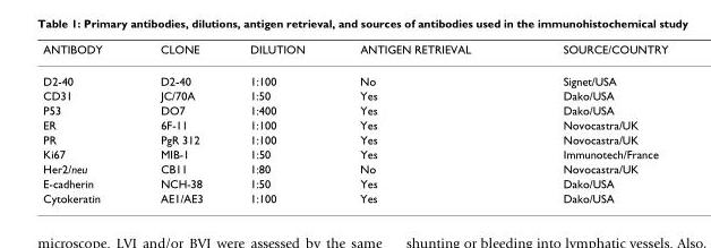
<table><thead><tr><td>ANTIBODY</td><td>CLONE</td><td>DILUTION</td><td>ANTIGEN RETRIEVAL</td><td>SOURCE/COUNTRY</td></tr></thead><tbody><tr><td>D2-40</td><td>D2-40</td><td>1:100</td><td>No</td><td>Signet/USA</td></tr><tr><td>CD31</td><td>JC/70A</td><td>1:50</td><td>Yes</td><td>Dako/USA</td></tr><tr><td>P53</td><td>DO7</td><td>1:400</td><td>Yes</td><td>Dako/USA</td></tr><tr><td>ER</td><td>6F-11</td><td>1:100</td><td>Yes</td><td>Novocastra/UK</td></tr><tr><td>PR</td><td>PgR 312</td><td>1:100</td><td>Yes</td><td>Novocastra/UK</td></tr><tr><td>Ki67</td><td>MIB-1</td><td>1:50</td><td>Yes</td><td>Immunotech/France</td></tr><tr><td>Her2/neu</td><td>CB11</td><td>1:80</td><td>No</td><td>Novocastra/UK</td></tr><tr><td>E-cadherin</td><td>NCH-38</td><td>1:50</td><td>Yes</td><td>Dako/USA</td></tr><tr><td>Cytokeratin</td><td>AE1/AE3</td><td>1:100</td><td>Yes</td><td>Dako/USA</td></tr></tbody></table>